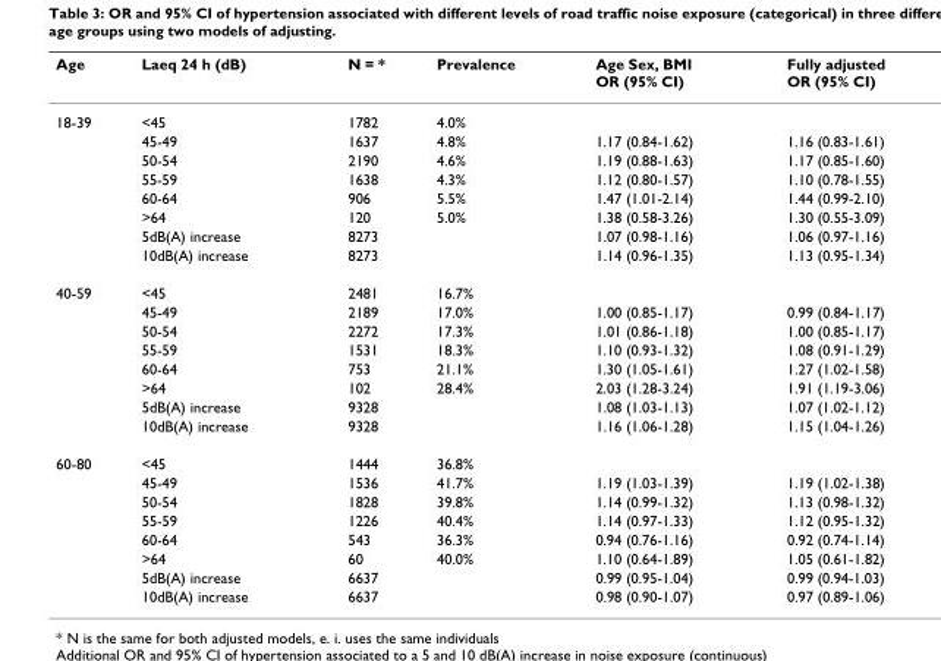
<table><thead><tr><td>Age</td><td>Laeq 24 h (dB)</td><td>N = *</td><td>Prevalence</td><td>Age Sex, BMI OR (95% CI)</td><td>Fully adjusted OR (95% CI)</td></tr></thead><tbody><tr><td rowspan="8">18-39</td><td>&lt;45</td><td>1782</td><td>4.0%</td><td></td><td></td></tr><tr><td>45-49</td><td>1637</td><td>4.8%</td><td>1.17 (0.84-1.62)</td><td>1.16 (0.83-1.61)</td></tr><tr><td>50-54</td><td>2190</td><td>4.6%</td><td>1.19 (0.88-1.63)</td><td>1.17 (0.85-1.60)</td></tr><tr><td>55-59</td><td>1638</td><td>4.3%</td><td>1.12 (0.80-1.57)</td><td>1.10 (0.78-1.55)</td></tr><tr><td>60-64</td><td>906</td><td>5.5%</td><td>1.47 (1.01-2.14)</td><td>1.44 (0.99-2.10)</td></tr><tr><td>&gt;64</td><td>120</td><td>5.0%</td><td>1.38 (0.58-3.26)</td><td>1.30 (0.55-3.09)</td></tr><tr><td>5dB(A) increase</td><td>8273</td><td></td><td>1.07 (0.98-1.16)</td><td>1.06 (0.97-1.16)</td></tr><tr><td>10dB(A) increase</td><td>8273</td><td></td><td>1.14 (0.96-1.35)</td><td>1.13 (0.95-1.34)</td></tr><tr><td rowspan="8">40-59</td><td>&lt;45</td><td>2481</td><td>16.7%</td><td></td><td></td></tr><tr><td>45-49</td><td>2189</td><td>17.0%</td><td>1.00 (0.85-1.17)</td><td>0.99 (0.84-1.17)</td></tr><tr><td>50-54</td><td>2272</td><td>17.3%</td><td>1.01 (0.86-1.18)</td><td>1.00 (0.85-1.17)</td></tr><tr><td>55-59</td><td>1531</td><td>18.3%</td><td>1.10 (0.93-1.32)</td><td>1.08 (0.91-1.29)</td></tr><tr><td>60-64</td><td>753</td><td>21.1%</td><td>1.30 (1.05-1.61)</td><td>1.27 (1.02-1.58)</td></tr><tr><td>&gt;64</td><td>102</td><td>28.4%</td><td>2.03 (1.28-3.24)</td><td>1.91 (1.19-3.06)</td></tr><tr><td>5dB(A) increase</td><td>9328</td><td></td><td>1.08 (1.03-1.13)</td><td>1.07 (1.02-1.12)</td></tr><tr><td>10dB(A) increase</td><td>9328</td><td></td><td>1.16 (1.06-1.28)</td><td>1.15 (1.04-1.26)</td></tr><tr><td rowspan="8">60-80</td><td>&lt;45</td><td>1444</td><td>36.8%</td><td></td><td></td></tr><tr><td>45-49</td><td>1536</td><td>41.7%</td><td>1.19 (1.03-1.39)</td><td>1.19 (1.02-1.38)</td></tr><tr><td>50-54</td><td>1828</td><td>39.8%</td><td>1.14 (0.99-1.32)</td><td>1.13 (0.98-1.32)</td></tr><tr><td>55-59</td><td>1226</td><td>40.4%</td><td>1.14 (0.97-1.33)</td><td>1.12 (0.95-1.32)</td></tr><tr><td>60-64</td><td>543</td><td>36.3%</td><td>0.94 (0.76-1.16)</td><td>0.92 (0.74-1.14)</td></tr><tr><td>&gt;64</td><td>60</td><td>40.0%</td><td>1.10 (0.64-1.89)</td><td>1.05 (0.61-1.82)</td></tr><tr><td>5dB(A) increase</td><td>6637</td><td></td><td>0.99 (0.95-1.04)</td><td>0.99 (0.94-1.03)</td></tr><tr><td>10dB(A) increase</td><td>6637</td><td></td><td>0.98 (0.90-1.07)</td><td>0.97 (0.89-1.06)</td></tr></tbody></table>